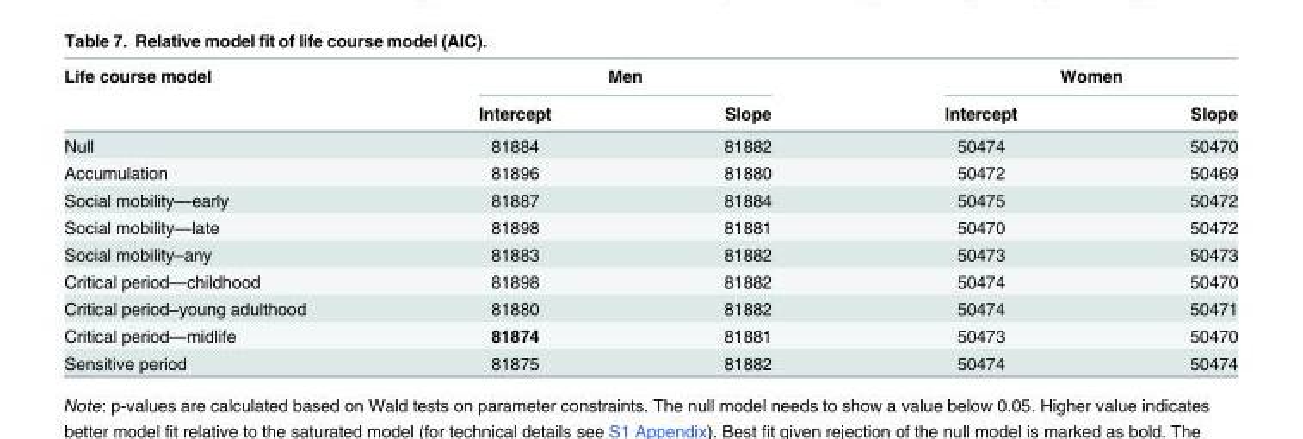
<table><thead><tr><td rowspan="2">Life course model</td><td colspan="2">Men</td><td colspan="2">Women</td></tr><tr><td>Intercept</td><td>Slope</td><td>Intercept</td><td>Slope</td></tr></thead><tbody><tr><td>Null</td><td>81884</td><td>81882</td><td>50474</td><td>50470</td></tr><tr><td>Accumulation</td><td>81896</td><td>81880</td><td>50472</td><td>50469</td></tr><tr><td>Social mobility—early</td><td>81887</td><td>81884</td><td>50475</td><td>50472</td></tr><tr><td>Social mobility—late</td><td>81898</td><td>81881</td><td>50470</td><td>50472</td></tr><tr><td>Social mobility–any</td><td>81883</td><td>81882</td><td>50473</td><td>50473</td></tr><tr><td>Critical period—childhood</td><td>81898</td><td>81882</td><td>50474</td><td>50470</td></tr><tr><td>Critical period–young adulthood</td><td>81880</td><td>81882</td><td>50474</td><td>50471</td></tr><tr><td>Critical period—midlife</td><td>81874</td><td>81881</td><td>50473</td><td>50470</td></tr><tr><td>Sensitive period</td><td>81875</td><td>81882</td><td>50474</td><td>50474</td></tr></tbody></table>